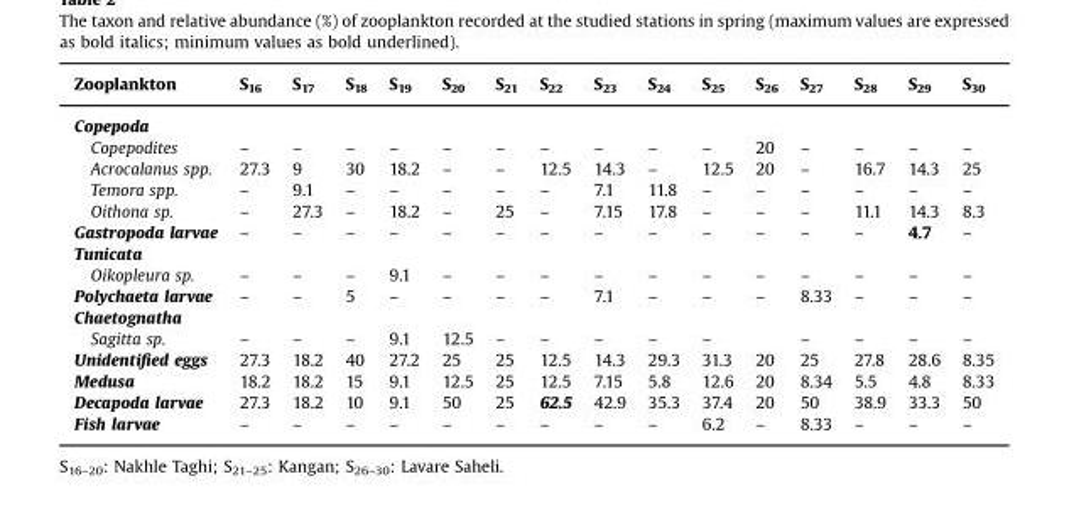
<table><thead><tr><td>Zooplankton</td><td>S<sub>16</sub></td><td>S<sub>17</sub></td><td>S<sub>18</sub></td><td>S<sub>19</sub></td><td>S<sub>20</sub></td><td>S<sub>21</sub></td><td>S<sub>22</sub></td><td>S<sub>23</sub></td><td>S<sub>24</sub></td><td>S<sub>25</sub></td><td>S<sub>26</sub></td><td>S<sub>27</sub></td><td>S<sub>28</sub></td><td>S<sub>29</sub></td><td>S<sub>30</sub></td></tr></thead><tbody><tr><td colspan="16">Copepoda</td></tr><tr><td>Copepodites</td><td>–</td><td>–</td><td>–</td><td>–</td><td>–</td><td>–</td><td>–</td><td>–</td><td>–</td><td>–</td><td>20</td><td>–</td><td>–</td><td>–</td><td>–</td></tr><tr><td>Acrocalanus spp.</td><td>27.3</td><td>9</td><td>30</td><td>18.2</td><td>–</td><td>–</td><td>12.5</td><td>14.3</td><td>–</td><td>12.5</td><td>20</td><td>–</td><td>16.7</td><td>14.3</td><td>25</td></tr><tr><td>Temora spp.</td><td>–</td><td>9.1</td><td>–</td><td>–</td><td>–</td><td>–</td><td>–</td><td>7.1</td><td>11.8</td><td>–</td><td>–</td><td>–</td><td>–</td><td>–</td><td>–</td></tr><tr><td>Oithona sp.</td><td>–</td><td>27.3</td><td>–</td><td>18.2</td><td>–</td><td>25</td><td>–</td><td>7.15</td><td>17.8</td><td>–</td><td>–</td><td>–</td><td>11.1</td><td>14.3</td><td>8.3</td></tr><tr><td>Gastropoda larvae</td><td>–</td><td>–</td><td>–</td><td>–</td><td>–</td><td>–</td><td>–</td><td>–</td><td>–</td><td>–</td><td>–</td><td>–</td><td>–</td><td>4.7</td><td>–</td></tr><tr><td colspan="16">Tunicata</td></tr><tr><td>Oikopleura sp.</td><td>–</td><td>–</td><td>–</td><td>9.1</td><td>–</td><td>–</td><td>–</td><td>–</td><td>–</td><td>–</td><td>–</td><td>–</td><td>–</td><td>–</td><td>–</td></tr><tr><td>Polychaeta larvae</td><td>–</td><td>–</td><td>5</td><td>–</td><td>–</td><td>–</td><td>–</td><td>7.1</td><td>–</td><td>–</td><td>–</td><td>8.33</td><td>–</td><td>–</td><td>–</td></tr><tr><td colspan="16">Chaetognatha</td></tr><tr><td>Sagitta sp.</td><td>–</td><td>–</td><td>–</td><td>9.1</td><td>12.5</td><td>–</td><td>–</td><td>–</td><td>–</td><td>–</td><td></td><td>–</td><td>–</td><td>–</td><td>–</td></tr><tr><td>Unidentified eggs</td><td>27.3</td><td>18.2</td><td>40</td><td>27.2</td><td>25</td><td>25</td><td>12.5</td><td>14.3</td><td>29.3</td><td>31.3</td><td>20</td><td>25</td><td>27.8</td><td>28.6</td><td>8.35</td></tr><tr><td>Medusa</td><td>18.2</td><td>18.2</td><td>15</td><td>9.1</td><td>12.5</td><td>25</td><td>12.5</td><td>7.15</td><td>5.8</td><td>12.6</td><td>20</td><td>8.34</td><td>5.5</td><td>4.8</td><td>8.33</td></tr><tr><td>Decapoda larvae</td><td>27.3</td><td>18.2</td><td>10</td><td>9.1</td><td>50</td><td>25</td><td>62.5</td><td>42.9</td><td>35.3</td><td>37.4</td><td>20</td><td>50</td><td>38.9</td><td>33.3</td><td>50</td></tr><tr><td>Fish larvae</td><td>–</td><td>–</td><td>–</td><td>–</td><td>–</td><td>–</td><td>–</td><td>–</td><td>–</td><td>6.2</td><td>–</td><td>8.33</td><td>–</td><td>–</td><td>–</td></tr></tbody></table>